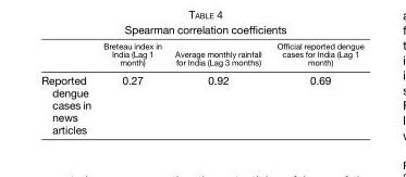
<table><thead><tr><td></td><td>Breteau index in India (Lag 1 month)</td><td>Average monthly rainfall for India (Lag 3 months)</td><td>Official reported dengue cases for India (Lag 1 month)</td></tr></thead><tbody><tr><td>Reported dengue cases in news articles</td><td>0.27</td><td>0.92</td><td>0.69</td></tr></tbody></table>